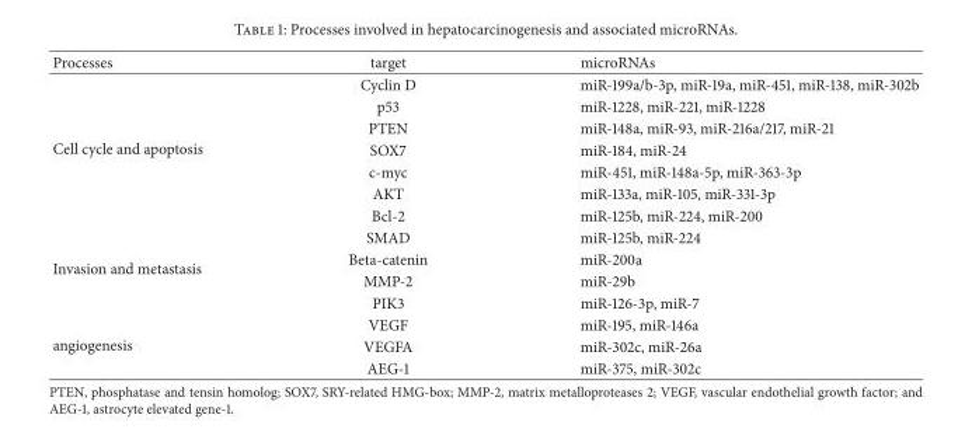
<table><thead><tr><td>Processes</td><td>target</td><td>microRNAs</td></tr></thead><tbody><tr><td rowspan="7">Cell cycle and apoptosis</td><td>Cyclin D</td><td>miR-199a/b-3p, miR-19a, miR-451, miR-138, miR-302b</td></tr><tr><td>p53</td><td>miR-1228, miR-221, miR-1228</td></tr><tr><td>PTEN</td><td>miR-148a, miR-93, miR-216a/217, miR-21</td></tr><tr><td>SOX7</td><td>miR-184, miR-24</td></tr><tr><td>c-myc</td><td>miR-451, miR-148a-5p, miR-363-3p</td></tr><tr><td>AKT</td><td>miR-133a, miR-105, miR-331-3p</td></tr><tr><td>Bcl-2</td><td>miR-125b, miR-224, miR-200</td></tr><tr><td rowspan="4">Invasion and metastasis</td><td>SMAD</td><td>miR-125b, miR-224</td></tr><tr><td>Beta-catenin</td><td>miR-200a</td></tr><tr><td>MMP-2</td><td>miR-29b</td></tr><tr><td>PIK3</td><td>miR-126-3p, miR-7</td></tr><tr><td rowspan="3">angiogenesis</td><td>VEGF</td><td>miR-195, miR-146a</td></tr><tr><td>VEGFA</td><td>miR-302c, miR-26a</td></tr><tr><td>AEG-1</td><td>miR-375, miR-302c</td></tr></tbody></table>